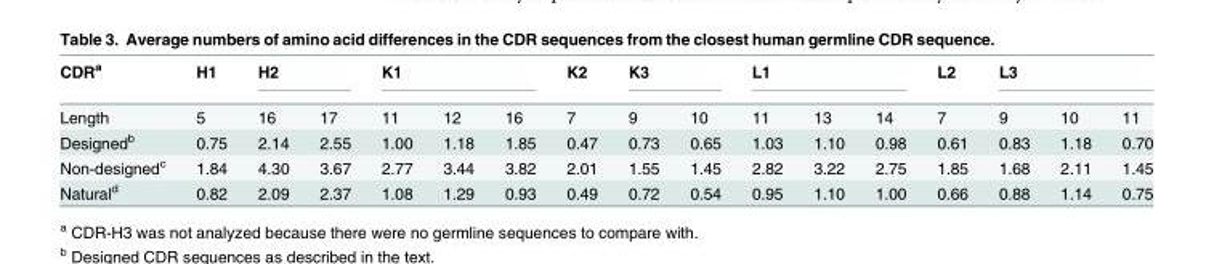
<table><thead><tr><td rowspan="2">CDR<sup>a</sup> Length</td><td rowspan="2">H1 5</td><td colspan="2">H2</td><td colspan="3">K1</td><td rowspan="2">K2 7</td><td colspan="2">K3</td><td colspan="3">L1</td><td rowspan="2">L2 7</td><td colspan="3">L3</td></tr><tr><td>16</td><td>17</td><td>11</td><td>12</td><td>16</td><td>9</td><td>10</td><td>11</td><td>13</td><td>14</td><td>9</td><td>10</td><td>11</td></tr></thead><tbody><tr><td>Designed<sup>b</sup></td><td>0.75</td><td>2.14</td><td>2.55</td><td>1.00</td><td>1.18</td><td>1.85</td><td>0.47</td><td>0.73</td><td>0.65</td><td>1.03</td><td>1.10</td><td>0.98</td><td>0.61</td><td>0.83</td><td>1.18</td><td>0.70</td></tr><tr><td>Non-designed<sup>c</sup></td><td>1.84</td><td>4.30</td><td>3.67</td><td>2.77</td><td>3.44</td><td>3.82</td><td>2.01</td><td>1.55</td><td>1.45</td><td>2.82</td><td>3.22</td><td>2.75</td><td>1.85</td><td>1.68</td><td>2.11</td><td>1.45</td></tr><tr><td>Natural<sup>d</sup></td><td>0.82</td><td>2.09</td><td>2.37</td><td>1.08</td><td>1.29</td><td>0.93</td><td>0.49</td><td>0.72</td><td>0.54</td><td>0.95</td><td>1.10</td><td>1.00</td><td>0.66</td><td>0.88</td><td>1.14</td><td>0.75</td></tr></tbody></table>